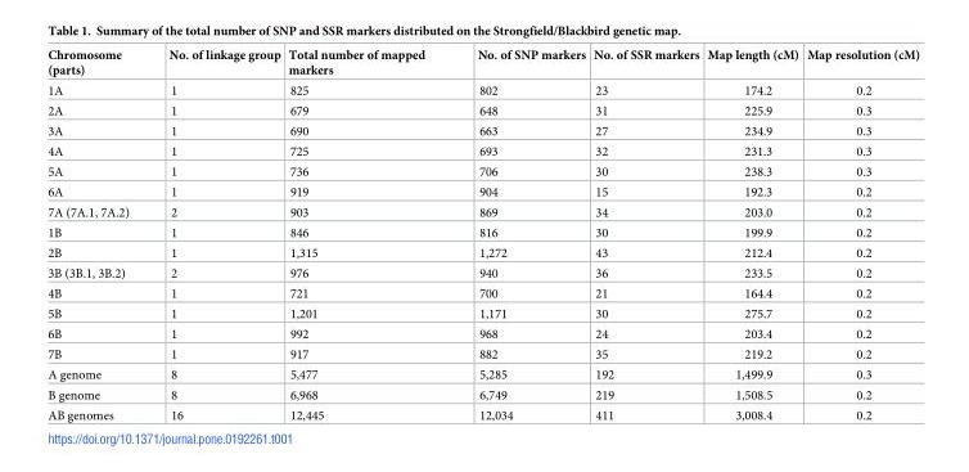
<table><thead><tr><td>Chromosome (parts)</td><td>No. of linkage group</td><td>Total number of mapped markers</td><td>No. of SNP markers</td><td>No. of SSR markers</td><td>Map length (cM)</td><td>Map resolution (cM)</td></tr></thead><tbody><tr><td>1A</td><td>1</td><td>825</td><td>802</td><td>23</td><td>174.2</td><td>0.2</td></tr><tr><td>2A</td><td>1</td><td>679</td><td>648</td><td>31</td><td>225.9</td><td>0.3</td></tr><tr><td>3A</td><td>1</td><td>690</td><td>663</td><td>27</td><td>234.9</td><td>0.3</td></tr><tr><td>4A</td><td>1</td><td>725</td><td>693</td><td>32</td><td>231.3</td><td>0.3</td></tr><tr><td>5A</td><td>1</td><td>736</td><td>706</td><td>30</td><td>238.3</td><td>0.3</td></tr><tr><td>6A</td><td>1</td><td>919</td><td>904</td><td>15</td><td>192.3</td><td>0.2</td></tr><tr><td>7A (7A.1, 7A.2)</td><td>2</td><td>903</td><td>869</td><td>34</td><td>203.0</td><td>0.2</td></tr><tr><td>1B</td><td>1</td><td>846</td><td>816</td><td>30</td><td>199.9</td><td>0.2</td></tr><tr><td>2B</td><td>1</td><td>1,315</td><td>1,272</td><td>43</td><td>212.4</td><td>0.2</td></tr><tr><td>3B (3B.1, 3B.2)</td><td>2</td><td>976</td><td>940</td><td>36</td><td>233.5</td><td>0.2</td></tr><tr><td>4B</td><td>1</td><td>721</td><td>700</td><td>21</td><td>164.4</td><td>0.2</td></tr><tr><td>5B</td><td>1</td><td>1,201</td><td>1,171</td><td>30</td><td>275.7</td><td>0.2</td></tr><tr><td>6B</td><td>1</td><td>992</td><td>968</td><td>24</td><td>203.4</td><td>0.2</td></tr><tr><td>7B</td><td>1</td><td>917</td><td>882</td><td>35</td><td>219.2</td><td>0.2</td></tr><tr><td>A genome</td><td>8</td><td>5,477</td><td>5,285</td><td>192</td><td>1,499.9</td><td>0.3</td></tr><tr><td>B genome</td><td>8</td><td>6,968</td><td>6,749</td><td>219</td><td>1,508.5</td><td>0.2</td></tr><tr><td>AB genomes</td><td>16</td><td>12,445</td><td>12,034</td><td>411</td><td>3,008.4</td><td>0.2</td></tr></tbody></table>